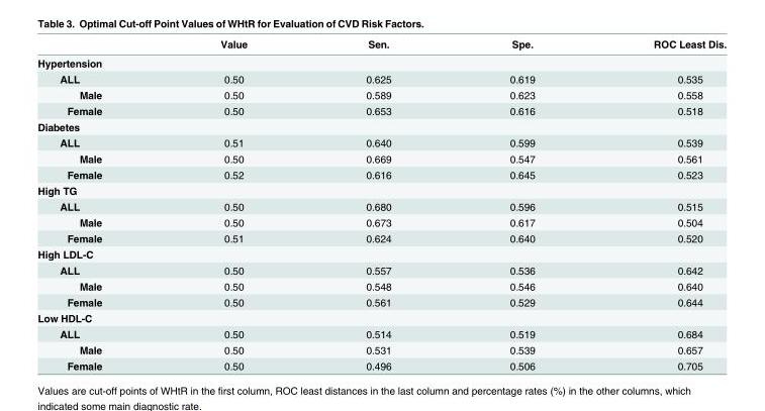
<table><thead><tr><td></td><td>Value</td><td>Sen.</td><td>Spe.</td><td>ROC Least Dis.</td></tr></thead><tbody><tr><td colspan="5">Hypertension</td></tr><tr><td>ALL</td><td>0.50</td><td>0.625</td><td>0.619</td><td>0.535</td></tr><tr><td>Male</td><td>0.50</td><td>0.589</td><td>0.623</td><td>0.558</td></tr><tr><td>Female</td><td>0.50</td><td>0.653</td><td>0.616</td><td>0.518</td></tr><tr><td colspan="5">Diabetes</td></tr><tr><td>ALL</td><td>0.51</td><td>0.640</td><td>0.599</td><td>0.539</td></tr><tr><td>Male</td><td>0.50</td><td>0.669</td><td>0.547</td><td>0.561</td></tr><tr><td>Female</td><td>0.52</td><td>0.616</td><td>0.645</td><td>0.523</td></tr><tr><td colspan="5">High TG</td></tr><tr><td>ALL</td><td>0.50</td><td>0.680</td><td>0.596</td><td>0.515</td></tr><tr><td>Male</td><td>0.50</td><td>0.673</td><td>0.617</td><td>0.504</td></tr><tr><td>Female</td><td>0.51</td><td>0.624</td><td>0.640</td><td>0.520</td></tr><tr><td colspan="5">High LDL-C</td></tr><tr><td>ALL</td><td>0.50</td><td>0.557</td><td>0.536</td><td>0.642</td></tr><tr><td>Male</td><td>0.50</td><td>0.548</td><td>0.546</td><td>0.640</td></tr><tr><td>Female</td><td>0.50</td><td>0.561</td><td>0.529</td><td>0.644</td></tr><tr><td colspan="5">Low HDL-C</td></tr><tr><td>ALL</td><td>0.50</td><td>0.514</td><td>0.519</td><td>0.684</td></tr><tr><td>Male</td><td>0.50</td><td>0.531</td><td>0.539</td><td>0.657</td></tr><tr><td>Female</td><td>0.50</td><td>0.496</td><td>0.506</td><td>0.705</td></tr></tbody></table>